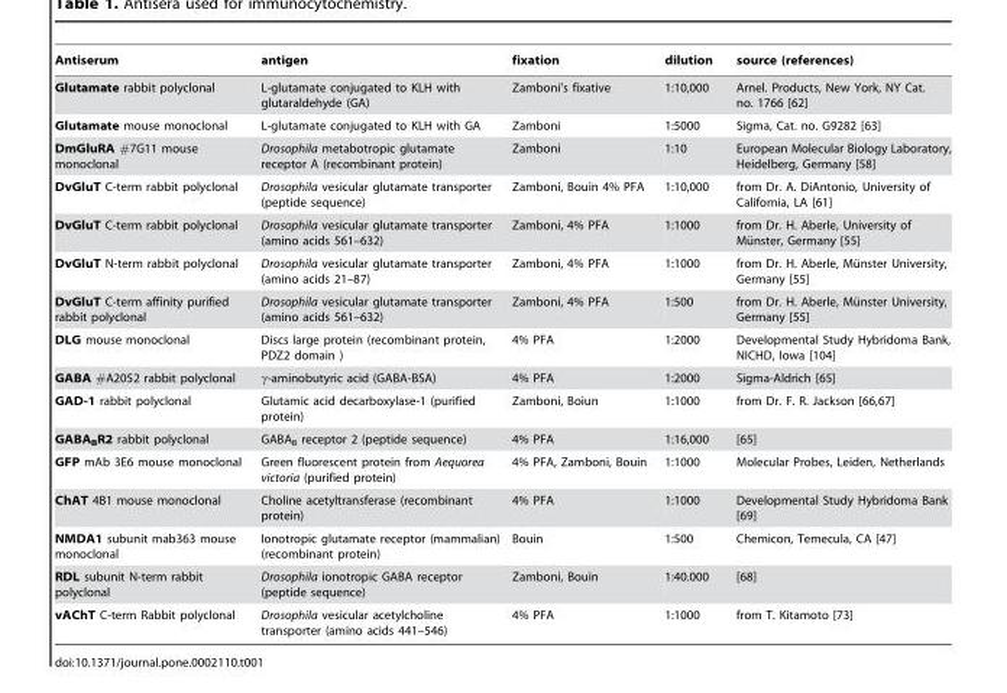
<table><thead><tr><td>Antiserum</td><td>antigen</td><td>fixation</td><td>dilution</td><td>source (references)</td></tr></thead><tbody><tr><td>Glutamate rabbit polyclonal</td><td>L-glutamate conjugated to KLH with glutaraldehyde (GA)</td><td>Zamboni’s fixative</td><td>1:10,000</td><td>Arnel. Products, New York, NY Cat. no. 1766 [62]</td></tr><tr><td>Glutamate mouse monoclonal</td><td>L-glutamate conjugated to KLH with GA</td><td>Zamboni</td><td>1:5000</td><td>Sigma, Cat. no. G9282 [63]</td></tr><tr><td>DmGluRA #7G11 mouse monoclonal</td><td>Drosophila metabotropic glutamate receptor A (recombinant protein)</td><td>Zamboni</td><td>1:10</td><td>European Molecular Biology Laboratory, Heidelberg, Germany [58]</td></tr><tr><td>DvGluT C-term rabbit polyclonal</td><td>Drosophila vesicular glutamate transporter (peptide sequence)</td><td>Zamboni, Bouin 4% PFA</td><td>1:10,000</td><td>from Dr. A. DiAntonio, University of California, LA [61]</td></tr><tr><td>DvGluT C-term rabbit polyclonal</td><td>Drosophila vesicular glutamate transporter (amino acids 561–632)</td><td>Zamboni, 4% PFA</td><td>1:1000</td><td>from Dr. H. Aberle, University of Mu¨nster, Germany [55]</td></tr><tr><td>DvGluT N-term rabbit polyclonal</td><td>Drosophila vesicular glutamate transporter (amino acids 21–87)</td><td>Zamboni, 4% PFA</td><td>1:1000</td><td>from Dr. H. Aberle, Mu¨nster University, Germany [55]</td></tr><tr><td>DvGluT C-term affinity purified rabbit polyclonal</td><td>Drosophila vesicular glutamate transporter (amino acids 561–632)</td><td>Zamboni, 4% PFA</td><td>1:500</td><td>from Dr. H. Aberle, Mu¨nster University, Germany [55]</td></tr><tr><td>DLG mouse monoclonal</td><td>Discs large protein (recombinant protein, PDZ2 domain )</td><td>4% PFA</td><td>1:2000</td><td>Developmental Study Hybridoma Bank, NICHD, Iowa [104]</td></tr><tr><td>GABA #A2052 rabbit polyclonal</td><td>γ-aminobutyric acid (GABA-BSA)</td><td>4% PFA</td><td>1:2000</td><td>Sigma-Aldrich [65]</td></tr><tr><td>GAD-1 rabbit polyclonal</td><td>Glutamic acid decarboxylase-1 (purified protein)</td><td>Zamboni, Boiun</td><td>1:1000</td><td>from Dr. F. R. Jackson [66,67]</td></tr><tr><td>GABA<sub>B</sub>R2 rabbit polyclonal</td><td>GABA<sub>B</sub> receptor 2 (peptide sequence)</td><td>4% PFA</td><td>1:16,000</td><td>[65]</td></tr><tr><td>GFP mAb 3E6 mouse monoclonal</td><td>Green fluorescent protein from Aequorea victoria (purified protein)</td><td>4% PFA, Zamboni, Bouin</td><td>1:1000</td><td>Molecular Probes, Leiden, Netherlands</td></tr><tr><td>ChAT 4B1 mouse monoclonal</td><td>Choline acetyltransferase (recombinant protein)</td><td>4% PFA</td><td>1:1000</td><td>Developmental Study Hybridoma Bank [69]</td></tr><tr><td>NMDA1 subunit mab363 mouse monoclonal</td><td>Ionotropic glutamate receptor (mammalian) (recombinant protein)</td><td>Bouin</td><td>1:500</td><td>Chemicon, Temecula, CA [47]</td></tr><tr><td>RDL subunit N-term rabbit polyclonal</td><td>Drosophila ionotropic GABA receptor (peptide sequence)</td><td>Zamboni, Bouin</td><td>1:40.000</td><td>[68]</td></tr><tr><td>vAChT C-term Rabbit polyclonal</td><td>Drosophila vesicular acetylcholine transporter (amino acids 441–546)</td><td>4% PFA</td><td>1:1000</td><td>from T. Kitamoto [73]</td></tr></tbody></table>